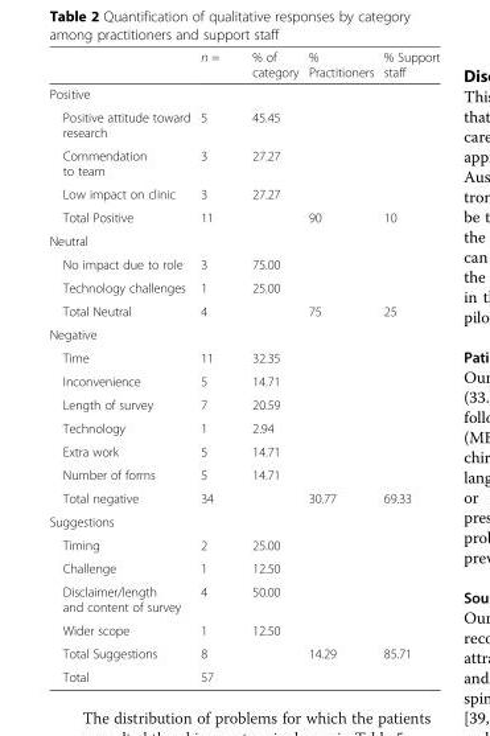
<table><thead><tr><td></td><td>n =</td><td>% of category</td><td>% Practitioners</td><td>% Support staff</td></tr></thead><tbody><tr><td colspan="5">Positive</td></tr><tr><td>Positive attitude toward research</td><td>5</td><td>45.45</td><td></td><td></td></tr><tr><td>Commendation to team</td><td>3</td><td>27.27</td><td></td><td></td></tr><tr><td>Low impact on clinic</td><td>3</td><td>27.27</td><td></td><td></td></tr><tr><td>Total Positive</td><td>11</td><td></td><td>90</td><td>10</td></tr><tr><td colspan="5">Neutral</td></tr><tr><td>No impact due to role</td><td>3</td><td>75.00</td><td></td><td></td></tr><tr><td>Technology challenges</td><td>1</td><td>25.00</td><td></td><td></td></tr><tr><td>Total Neutral</td><td>4</td><td></td><td>75</td><td>25</td></tr><tr><td colspan="5">Negative</td></tr><tr><td>Time</td><td>11</td><td>32.35</td><td></td><td></td></tr><tr><td>Inconvenience</td><td>5</td><td>14.71</td><td></td><td></td></tr><tr><td>Length of survey</td><td>7</td><td>20.59</td><td></td><td></td></tr><tr><td>Technology</td><td>1</td><td>2.94</td><td></td><td></td></tr><tr><td>Extra work</td><td>5</td><td>14.71</td><td></td><td></td></tr><tr><td>Number of forms</td><td>5</td><td>14.71</td><td></td><td></td></tr><tr><td>Total negative</td><td>34</td><td></td><td>30.77</td><td>69.33</td></tr><tr><td colspan="5">Suggestions</td></tr><tr><td>Timing</td><td>2</td><td>25.00</td><td></td><td></td></tr><tr><td>Challenge</td><td>1</td><td>12.50</td><td></td><td></td></tr><tr><td>Disclaimer/length and content of survey</td><td>4</td><td>50.00</td><td></td><td></td></tr><tr><td>Wider scope</td><td>1</td><td>12.50</td><td></td><td></td></tr><tr><td>Total Suggestions</td><td>8</td><td></td><td>14.29</td><td>85.71</td></tr><tr><td>Total</td><td>57</td><td></td><td></td><td></td></tr></tbody></table>